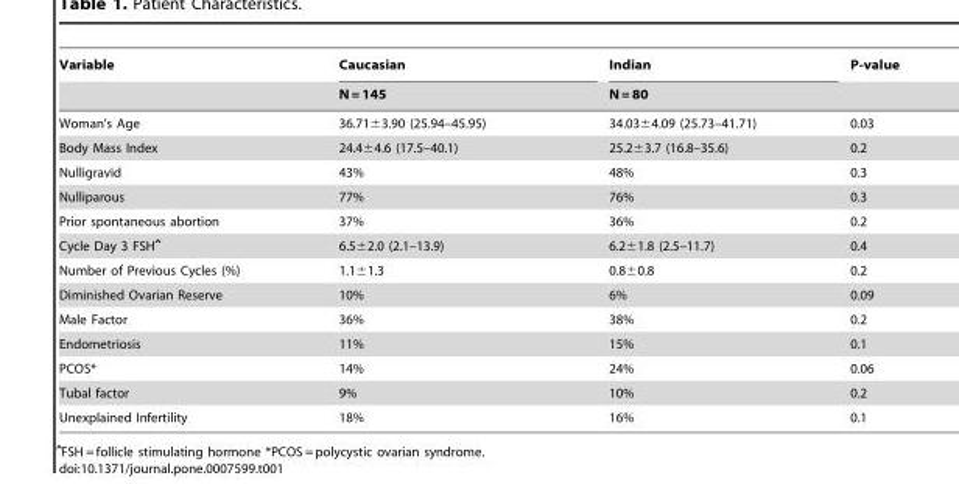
<table><thead><tr><td rowspan="2">Variable</td><td rowspan="2">Caucasian N = 145</td><td rowspan="2">Indian N = 80</td><td rowspan="2">P-value</td></tr><tr></tr></thead><tbody><tr><td>Woman’s Age</td><td>36.71±3.90 (25.94–45.95)</td><td>34.03±4.09 (25.73–41.71)</td><td>0.03</td></tr><tr><td>Body Mass Index</td><td>24.4±4.6 (17.5–40.1)</td><td>25.2±3.7 (16.8–35.6)</td><td>0.2</td></tr><tr><td>Nulligravid</td><td>43%</td><td>48%</td><td>0.3</td></tr><tr><td>Nulliparous</td><td>77%</td><td>76%</td><td>0.3</td></tr><tr><td>Prior spontaneous abortion</td><td>37%</td><td>36%</td><td>0.2</td></tr><tr><td>Cycle Day 3 FSHˆ</td><td>6.5±2.0 (2.1–13.9)</td><td>6.2±1.8 (2.5–11.7)</td><td>0.4</td></tr><tr><td>Number of Previous Cycles (%)</td><td>1.1±1.3</td><td>0.8±0.8</td><td>0.2</td></tr><tr><td>Diminished Ovarian Reserve</td><td>10%</td><td>6%</td><td>0.09</td></tr><tr><td>Male Factor</td><td>36%</td><td>38%</td><td>0.2</td></tr><tr><td>Endometriosis</td><td>11%</td><td>15%</td><td>0.1</td></tr><tr><td>PCOS*</td><td>14%</td><td>24%</td><td>0.06</td></tr><tr><td>Tubal factor</td><td>9%</td><td>10%</td><td>0.2</td></tr><tr><td>Unexplained Infertility</td><td>18%</td><td>16%</td><td>0.1</td></tr></tbody></table>